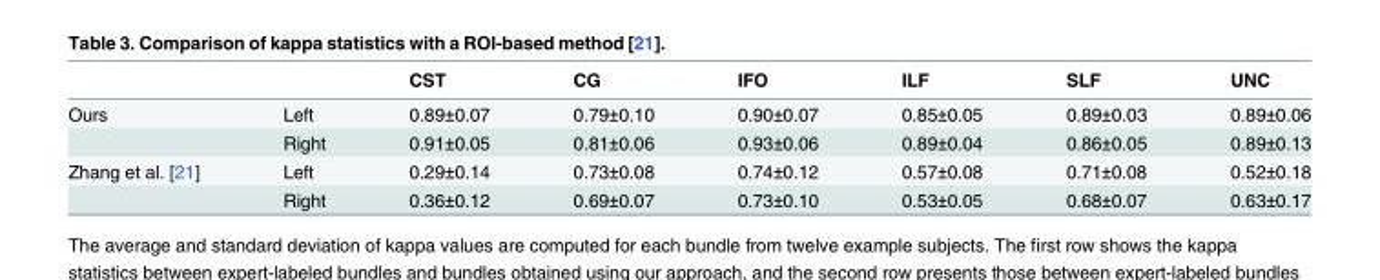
<table><thead><tr><td></td><td></td><td>CST</td><td>CG</td><td>IFO</td><td>ILF</td><td>SLF</td><td>UNC</td></tr></thead><tbody><tr><td rowspan="2">Ours</td><td>Left</td><td>0.89±0.07</td><td>0.79±0.10</td><td>0.90±0.07</td><td>0.85±0.05</td><td>0.89±0.03</td><td>0.89±0.06</td></tr><tr><td>Right</td><td>0.91±0.05</td><td>0.81±0.06</td><td>0.93±0.06</td><td>0.89±0.04</td><td>0.86±0.05</td><td>0.89±0.13</td></tr><tr><td rowspan="2">Zhang et al. [21]</td><td>Left</td><td>0.29±0.14</td><td>0.73±0.08</td><td>0.74±0.12</td><td>0.57±0.08</td><td>0.71±0.08</td><td>0.52±0.18</td></tr><tr><td>Right</td><td>0.36±0.12</td><td>0.69±0.07</td><td>0.73±0.10</td><td>0.53±0.05</td><td>0.68±0.07</td><td>0.63±0.17</td></tr></tbody></table>